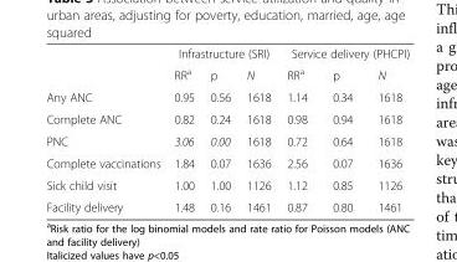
<table><thead><tr><td rowspan="2"></td><td colspan="3">Infrastructure (SRI)</td><td colspan="3">Service delivery (PHCPI)</td></tr><tr><td>RR<sup>a</sup></td><td>p</td><td>N</td><td>RR<sup>a</sup></td><td>p</td><td>N</td></tr></thead><tbody><tr><td>Any ANC</td><td>0.95</td><td>0.56</td><td>1618</td><td>1.14</td><td>0.34</td><td>1618</td></tr><tr><td>Complete ANC</td><td>0.82</td><td>0.24</td><td>1618</td><td>0.98</td><td>0.94</td><td>1618</td></tr><tr><td>PNC</td><td>3.06</td><td>0.00</td><td>1618</td><td>0.72</td><td>0.64</td><td>1618</td></tr><tr><td>Complete vaccinations</td><td>1.84</td><td>0.07</td><td>1636</td><td>2.56</td><td>0.07</td><td>1636</td></tr><tr><td>Sick child visit</td><td>1.00</td><td>1.00</td><td>1126</td><td>1.12</td><td>0.85</td><td>1126</td></tr><tr><td>Facility delivery</td><td>1.48</td><td>0.16</td><td>1461</td><td>0.87</td><td>0.80</td><td>1461</td></tr></tbody></table>